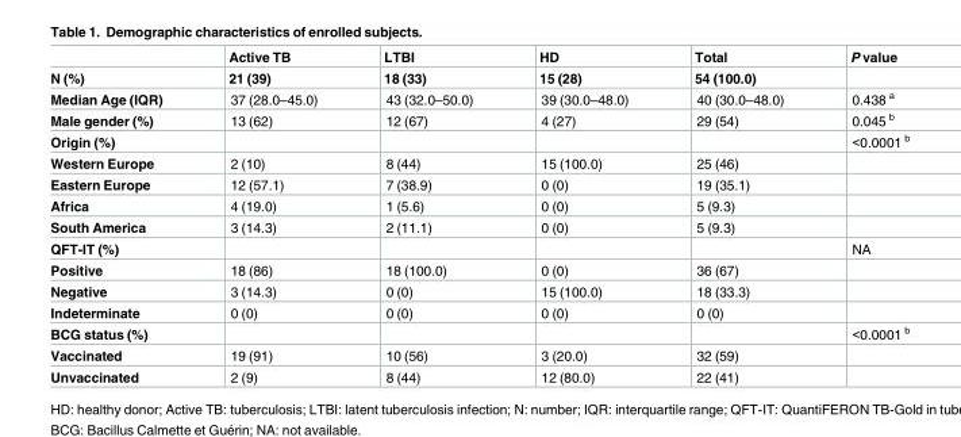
<table><thead><tr><td rowspan="2">N (%)</td><td rowspan="2">Active TB 21 (39)</td><td rowspan="2">LTBI 18 (33)</td><td rowspan="2">HD 15 (28)</td><td rowspan="2">Total 54 (100.0)</td><td rowspan="2">P value</td></tr><tr></tr></thead><tbody><tr><td>Median Age (IQR)</td><td>37 (28.0–45.0)</td><td>43 (32.0–50.0)</td><td>39 (30.0–48.0)</td><td>40 (30.0–48.0)</td><td>0.438 <sup>a</sup></td></tr><tr><td>Male gender (%)</td><td>13 (62)</td><td>12 (67)</td><td>4 (27)</td><td>29 (54)</td><td>0.045 <sup>b</sup></td></tr><tr><td>Origin (%)</td><td></td><td></td><td></td><td></td><td>&lt;0.0001 <sup>b</sup></td></tr><tr><td>Western Europe</td><td>2 (10)</td><td>8 (44)</td><td>15 (100.0)</td><td>25 (46)</td><td></td></tr><tr><td>Eastern Europe</td><td>12 (57.1)</td><td>7 (38.9)</td><td>0 (0)</td><td>19 (35.1)</td><td></td></tr><tr><td>Africa</td><td>4 (19.0)</td><td>1 (5.6)</td><td>0 (0)</td><td>5 (9.3)</td><td></td></tr><tr><td>South America</td><td>3 (14.3)</td><td>2 (11.1)</td><td>0 (0)</td><td>5 (9.3)</td><td></td></tr><tr><td>QFT-IT (%)</td><td></td><td></td><td></td><td></td><td>NA</td></tr><tr><td>Positive</td><td>18 (86)</td><td>18 (100.0)</td><td>0 (0)</td><td>36 (67)</td><td></td></tr><tr><td>Negative</td><td>3 (14.3)</td><td>0 (0)</td><td>15 (100.0)</td><td>18 (33.3)</td><td></td></tr><tr><td>Indeterminate</td><td>0 (0)</td><td>0 (0)</td><td>0 (0)</td><td>0 (0)</td><td></td></tr><tr><td>BCG status (%)</td><td></td><td></td><td></td><td></td><td>&lt;0.0001 <sup>b</sup></td></tr><tr><td>Vaccinated</td><td>19 (91)</td><td>10 (56)</td><td>3 (20.0)</td><td>32 (59)</td><td></td></tr><tr><td>Unvaccinated</td><td>2 (9)</td><td>8 (44)</td><td>12 (80.0)</td><td>22 (41)</td><td></td></tr></tbody></table>